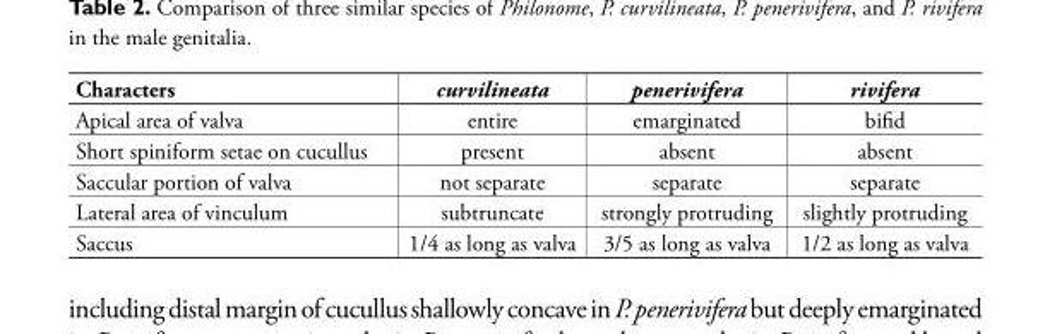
<table><thead><tr><td>Characters</td><td>curvilineata</td><td>penerivifera</td><td>rivifera</td></tr></thead><tbody><tr><td>Apical area of valva</td><td>entire</td><td>emarginated</td><td>bifid</td></tr><tr><td>Short spiniform setae on cucullus</td><td>present</td><td>absent</td><td>absent</td></tr><tr><td>Saccular portion of valva</td><td>not separate</td><td>separate</td><td>separate</td></tr><tr><td>Lateral area of vinculum</td><td>subtruncate</td><td>strongly protruding</td><td>slightly protruding</td></tr><tr><td>Saccus</td><td>1/4 as long as valva</td><td>3/5 as long as valva</td><td>1/2 as long as valva</td></tr></tbody></table>